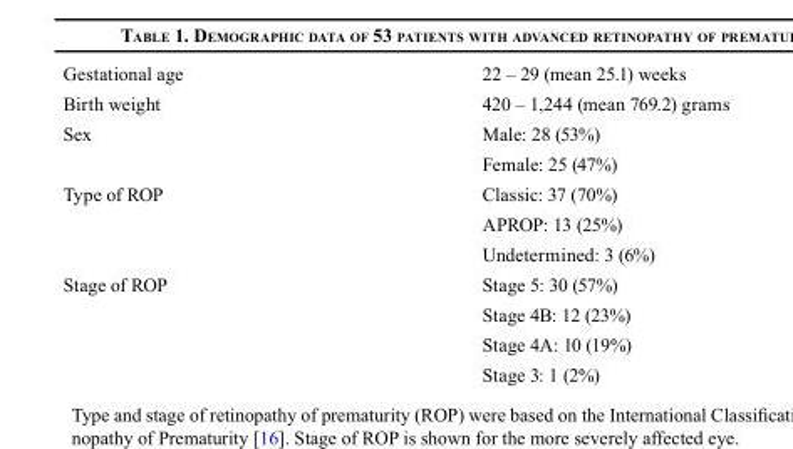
<table><tbody><tr><td>Gestational age</td><td>22 – 29 (mean 25.1) weeks</td></tr><tr><td>Birth weight</td><td>420 – 1,244 (mean 769.2) grams</td></tr><tr><td rowspan="2">Sex</td><td>Male: 28 (53%)</td></tr><tr><td>Female: 25 (47%)</td></tr><tr><td rowspan="3">Type of ROP</td><td>Classic: 37 (70%)</td></tr><tr><td>APROP: 13 (25%)</td></tr><tr><td>Undetermined: 3 (6%)</td></tr><tr><td rowspan="4">Stage of ROP</td><td>Stage 5: 30 (57%)</td></tr><tr><td>Stage 4B: 12 (23%)</td></tr><tr><td>Stage 4A: 10 (19%)</td></tr><tr><td>Stage 3: 1 (2%)</td></tr></tbody></table>